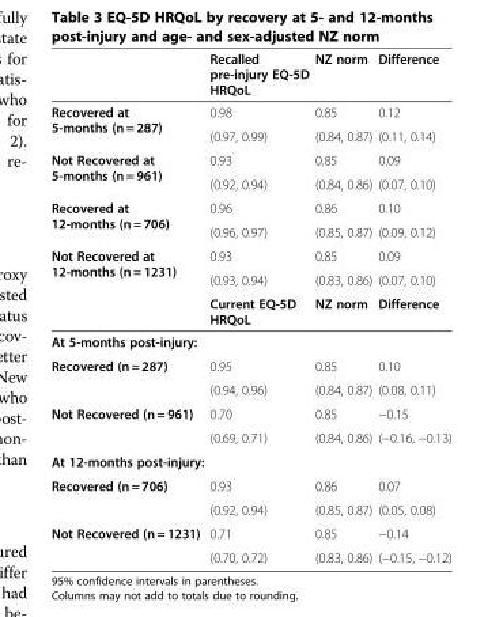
<table><thead><tr><td></td><td>Recalled pre-injury EQ-5D HRQoL</td><td>NZ norm</td><td>Difference</td></tr></thead><tbody><tr><td rowspan="2">Recovered at 5-months (n = 287)</td><td>0.98</td><td>0.85</td><td>0.12</td></tr><tr><td>(0.97, 0.99)</td><td>(0.84, 0.87)</td><td>(0.11, 0.14)</td></tr><tr><td rowspan="2">Not Recovered at 5-months (n = 961)</td><td>0.93</td><td>0.85</td><td>0.09</td></tr><tr><td>(0.92, 0.94)</td><td>(0.84, 0.86)</td><td>(0.07, 0.10)</td></tr><tr><td rowspan="2">Recovered at 12-months (n = 706)</td><td>0.96</td><td>0.86</td><td>0.10</td></tr><tr><td>(0.96, 0.97)</td><td>(0.85, 0.87)</td><td>(0.09, 0.12)</td></tr><tr><td rowspan="3">Not Recovered at 12-months (n = 1231)</td><td>0.93</td><td>0.85</td><td>0.09</td></tr><tr><td>(0.93, 0.94)</td><td>(0.83, 0.86)</td><td>(0.07, 0.10)</td></tr><tr><td>Current EQ-5D HRQoL</td><td>NZ norm</td><td>Difference</td></tr><tr><td colspan="4">At 5-months post-injury:</td></tr><tr><td rowspan="2">Recovered (n = 287)</td><td>0.95</td><td>0.85</td><td>0.10</td></tr><tr><td>(0.94, 0.96)</td><td>(0.84, 0.87)</td><td>(0.08, 0.11)</td></tr><tr><td rowspan="2">Not Recovered (n = 961)</td><td>0.70</td><td>0.85</td><td>−0.15</td></tr><tr><td>(0.69, 0.71)</td><td>(0.84, 0.86)</td><td>(−0.16, −0.13)</td></tr><tr><td colspan="4">At 12-months post-injury:</td></tr><tr><td rowspan="2">Recovered (n = 706)</td><td>0.93</td><td>0.86</td><td>0.07</td></tr><tr><td>(0.92, 0.94)</td><td>(0.85, 0.87)</td><td>(0.05, 0.08)</td></tr><tr><td rowspan="2">Not Recovered (n = 1231)</td><td>0.71</td><td>0.85</td><td>−0.14</td></tr><tr><td>(0.70, 0.72)</td><td>(0.83, 0.86)</td><td>(−0.15, −0.12)</td></tr></tbody></table>